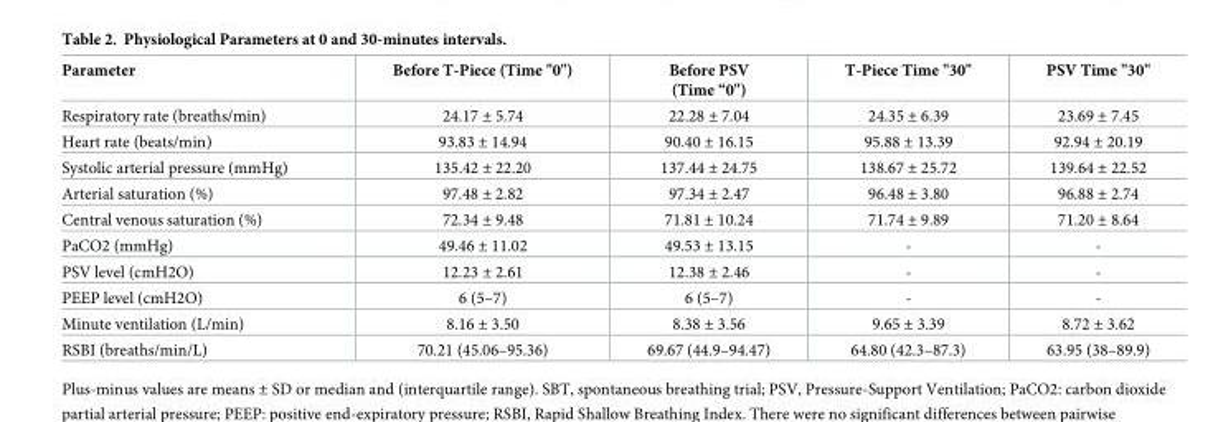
<table><thead><tr><td>Parameter</td><td>Before T-Piece (Time &quot;0&quot;)</td><td>Before PSV (Time “0&quot;)</td><td>T-Piece Time &quot;30&quot;</td><td>PSV Time &quot;30&quot;</td></tr></thead><tbody><tr><td>Respiratory rate (breaths/min)</td><td>24.17 ± 5.74</td><td>22.28 ± 7.04</td><td>24.35 ± 6.39</td><td>23.69 ± 7.45</td></tr><tr><td>Heart rate (beats/min)</td><td>93.83 ± 14.94</td><td>90.40 ± 16.15</td><td>95.88 ± 13.39</td><td>92.94 ± 20.19</td></tr><tr><td>Systolic arterial pressure (mmHg)</td><td>135.42 ± 22.20</td><td>137.44 ± 24.75</td><td>138.67 ± 25.72</td><td>139.64 ± 22.52</td></tr><tr><td>Arterial saturation (%)</td><td>97.48 ± 2.82</td><td>97.34 ± 2.47</td><td>96.48 ± 3.80</td><td>96.88 ± 2.74</td></tr><tr><td>Central venous saturation (%)</td><td>72.34 ± 9.48</td><td>71.81 ± 10.24</td><td>71.74 ± 9.89</td><td>71.20 ± 8.64</td></tr><tr><td>PaCO2 (mmHg)</td><td>49.46 ± 11.02</td><td>49.53 ± 13.15</td><td>-</td><td>-</td></tr><tr><td>PSV level (cmH2O)</td><td>12.23 ± 2.61</td><td>12.38 ± 2.46</td><td>-</td><td>-</td></tr><tr><td>PEEP level (cmH2O)</td><td>6 (5–7)</td><td>6 (5–7)</td><td>-</td><td>-</td></tr><tr><td>Minute ventilation (L/min)</td><td>8.16 ± 3.50</td><td>8.38 ± 3.56</td><td>9.65 ± 3.39</td><td>8.72 ± 3.62</td></tr><tr><td>RSBI (breaths/min/L)</td><td>70.21 (45.06–95.36)</td><td>69.67 (44.9–94.47)</td><td>64.80 (42.3–87.3)</td><td>63.95 (38–89.9)</td></tr></tbody></table>